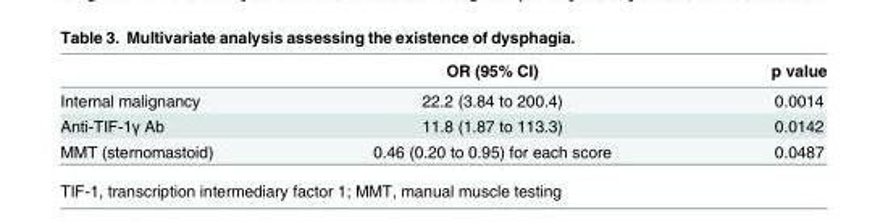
<table><thead><tr><td></td><td>OR (95% CI)</td><td>p value</td></tr></thead><tbody><tr><td>Internal malignancy</td><td>22.2 (3.84 to 200.4)</td><td>0.0014</td></tr><tr><td>Anti-TIF-1γ Ab</td><td>11.8 (1.87 to 113.3)</td><td>0.0142</td></tr><tr><td>MMT (sternomastoid)</td><td>0.46 (0.20 to 0.95) for each score</td><td>0.0487</td></tr></tbody></table>